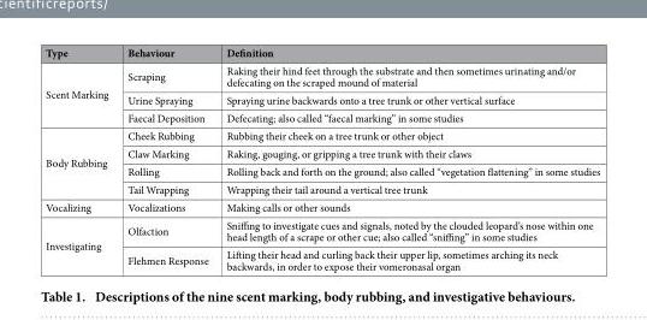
<table><thead><tr><td>Type</td><td>Behaviour</td><td>Definition</td></tr></thead><tbody><tr><td rowspan="3">Scent Marking</td><td>Scraping</td><td>Raking their hind feet through the substrate and then sometimes urinating and/or defecating on the scraped mound of material</td></tr><tr><td>Urine Spraying</td><td>Spraying urine backwards onto a tree trunk or other vertical surface</td></tr><tr><td>Faecal Deposition</td><td>Defecating; also called “faecal marking” in some studies</td></tr><tr><td rowspan="4">Body Rubbing</td><td>Cheek Rubbing</td><td>Rubbing their cheek on a tree trunk or other object</td></tr><tr><td>Claw Marking</td><td>Raking, gouging, or gripping a tree trunk with their claws</td></tr><tr><td>Rolling</td><td>Rolling back and forth on the ground; also called “vegetation flattening” in some studies</td></tr><tr><td>Tail Wrapping</td><td>Wrapping their tail around a vertical tree trunk</td></tr><tr><td>Vocalizing</td><td>Vocalizations</td><td>Making calls or other sounds</td></tr><tr><td rowspan="2">Investigating</td><td>Olfaction</td><td>Sniffing to investigate cues and signals, noted by the clouded leopard’s nose within one head length of a scrape or other cue; also called “sniffing” in some studies</td></tr><tr><td>Flehmen Response</td><td>Lifting their head and curling back their upper lip, sometimes arching its neck backwards, in order to expose their vomeronasal organ</td></tr></tbody></table>